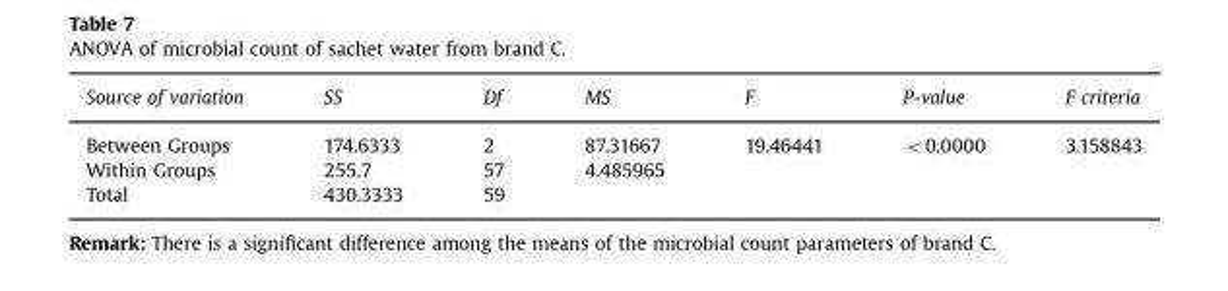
<table><thead><tr><td>Source of variation</td><td>SS</td><td>Df</td><td>MS</td><td>F</td><td>P-value</td><td>F criteria</td></tr></thead><tbody><tr><td>Between Groups</td><td>174.6333</td><td>2</td><td>87.31667</td><td>19.46441</td><td>&lt;0.0000</td><td>3.158843</td></tr><tr><td>Within Groups</td><td>255.7</td><td>57</td><td>4.485965</td><td></td><td></td><td></td></tr><tr><td>Total</td><td>430.3333</td><td>59</td><td></td><td></td><td></td><td></td></tr></tbody></table>